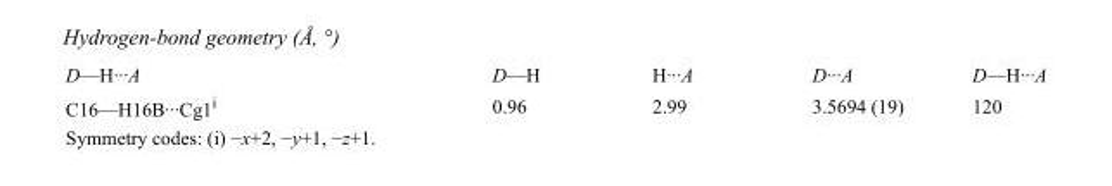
<table><tbody><tr><td>D—H···A</td><td>D—H</td><td>H···A</td><td>D···A</td><td>D—H···A</td></tr><tr><td>C16—H16B···Cg1<sup>i</sup></td><td>0.96</td><td>2.99</td><td>3.5694 (19)</td><td>120</td></tr></tbody></table>